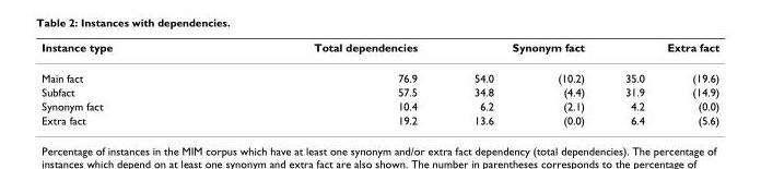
<table><thead><tr><td rowspan="2">Instance type Main fact</td><td rowspan="2">Total dependencies 76.9</td><td colspan="2">Synonym fact</td><td colspan="2">Extra fact</td></tr><tr><td>54.0</td><td>(10.2)</td><td>35.0</td><td>(19.6)</td></tr></thead><tbody><tr><td>Subfact</td><td>57.5</td><td>34.8</td><td>(4.4)</td><td>31.9</td><td>(14.9)</td></tr><tr><td>Synonym fact</td><td>10.4</td><td>6.2</td><td>(2.1)</td><td>4.2</td><td>(0.0)</td></tr><tr><td>Extra fact</td><td>19.2</td><td>13.6</td><td>(0.0)</td><td>6.4</td><td>(5.6)</td></tr></tbody></table>